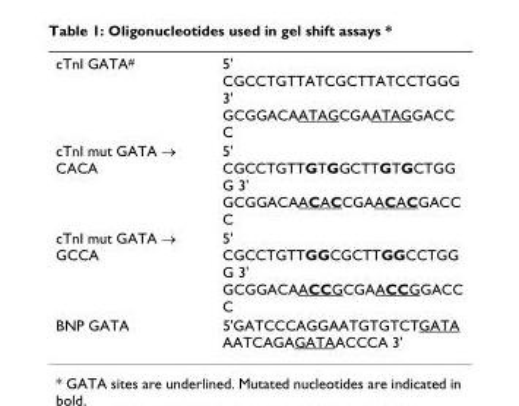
<table><tbody><tr><td>cTnI GATA<sup>#</sup></td><td>5&#x27; CGCCTGTTATCGCTTATCCTGGG 3&#x27; GCGGACAATAGCGAATAGGACC C</td></tr><tr><td>cTnI mut GATA → CACA</td><td>5&#x27; CGCCTGTTGTGGCTTGTGCTGG G 3&#x27; GCGGACAACACCGAACACGACC C</td></tr><tr><td>cTnI mut GATA → GCCA</td><td>5&#x27; CGCCTGTTGGCGCTTGGCCTGG G 3&#x27; GCGGACAACCGCGAACCGGACC C</td></tr><tr><td>BNP GATA</td><td>5&#x27;GATCCCAGGAATGTGTCTGATA AATCAGAGATAACCCA 3&#x27;</td></tr></tbody></table>